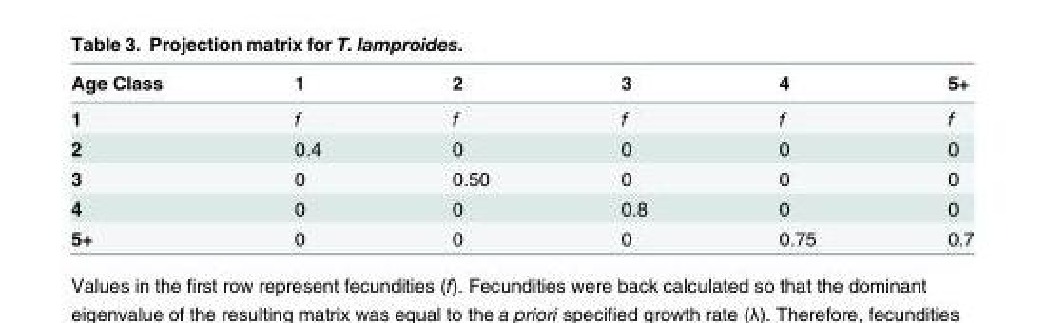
<table><thead><tr><td>Age Class</td><td>1</td><td>2</td><td>3</td><td>4</td><td>5+</td></tr></thead><tbody><tr><td>1</td><td>f</td><td>f</td><td>f</td><td>f</td><td>f</td></tr><tr><td>2</td><td>0.4</td><td>0</td><td>0</td><td>0</td><td>0</td></tr><tr><td>3</td><td>0</td><td>0.50</td><td>0</td><td>0</td><td>0</td></tr><tr><td>4</td><td>0</td><td>0</td><td>0.8</td><td>0</td><td>0</td></tr><tr><td>5+</td><td>0</td><td>0</td><td>0</td><td>0.75</td><td>0.7</td></tr></tbody></table>